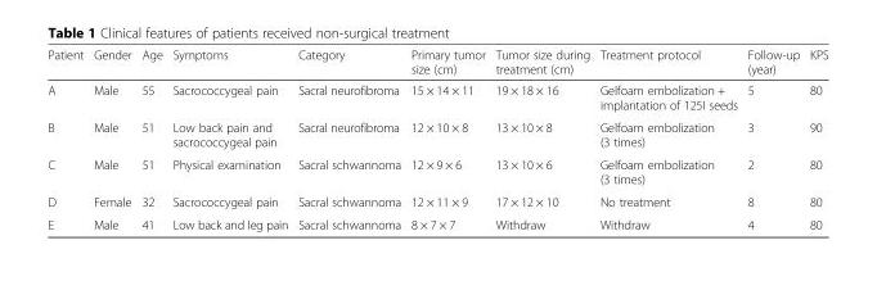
<table><thead><tr><td>Patient</td><td>Gender</td><td>Age</td><td>Symptoms</td><td>Category</td><td>Primary tumor size (cm)</td><td>Tumor size during treatment (cm)</td><td>Treatment protocol</td><td>Follow-up (year)</td><td>KPS</td></tr></thead><tbody><tr><td>A</td><td>Male</td><td>55</td><td>Sacrococcygeal pain</td><td>Sacral neurofibroma</td><td>15 × 14 × 11</td><td>19 × 18 × 16</td><td>Gelfoam embolization + implantation of 125I seeds</td><td>5</td><td>80</td></tr><tr><td>B</td><td>Male</td><td>51</td><td>Low back pain and sacrococcygeal pain</td><td>Sacral neurofibroma</td><td>12 × 10 × 8</td><td>13 × 10 × 8</td><td>Gelfoam embolization (3 times)</td><td>3</td><td>90</td></tr><tr><td>C</td><td>Male</td><td>51</td><td>Physical examination</td><td>Sacral schwannoma</td><td>12 × 9 × 6</td><td>13 × 10 × 6</td><td>Gelfoam embolization (3 times)</td><td>2</td><td>80</td></tr><tr><td>D</td><td>Female</td><td>32</td><td>Sacrococcygeal pain</td><td>Sacral schwannoma</td><td>12 × 11 × 9</td><td>17 × 12 × 10</td><td>No treatment</td><td>8</td><td>80</td></tr><tr><td>E</td><td>Male</td><td>41</td><td>Low back and leg pain</td><td>Sacral schwannoma</td><td>8 × 7 × 7</td><td>Withdraw</td><td>Withdraw</td><td>4</td><td>80</td></tr></tbody></table>